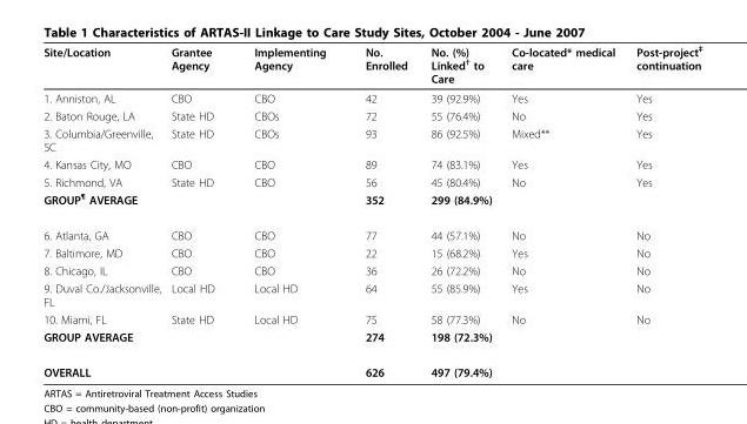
<table><thead><tr><td>Site/Location</td><td>Grantee Agency</td><td>Implementing Agency</td><td>No. Enrolled</td><td>No. (%) Linked<sup>†</sup> to Care</td><td>Co-located* medical care</td><td>Post-project<sup>‡</sup> continuation</td></tr></thead><tbody><tr><td>1. Anniston, AL</td><td>CBO</td><td>CBO</td><td>42</td><td>39 (92.9%)</td><td>Yes</td><td>Yes</td></tr><tr><td>2. Baton Rouge, LA</td><td>State HD</td><td>CBOs</td><td>72</td><td>55 (76.4%)</td><td>No</td><td>Yes</td></tr><tr><td>3. Columbia/Greenville, SC</td><td>State HD</td><td>CBOs</td><td>93</td><td>86 (92.5%)</td><td>Mixed**</td><td>Yes</td></tr><tr><td>4. Kansas City, MO</td><td>CBO</td><td>CBO</td><td>89</td><td>74 (83.1%)</td><td>Yes</td><td>Yes</td></tr><tr><td>5. Richmond, VA</td><td>State HD</td><td>CBO</td><td>56</td><td>45 (80.4%)</td><td>No</td><td>Yes</td></tr><tr><td>GROUP<sup>¶</sup> AVERAGE</td><td></td><td></td><td>352</td><td>299 (84.9%)</td><td></td><td></td></tr><tr><td>6. Atlanta, GA</td><td>CBO</td><td>CBO</td><td>77</td><td>44 (57.1%)</td><td>No</td><td>No</td></tr><tr><td>7. Baltimore, MD</td><td>CBO</td><td>CBO</td><td>22</td><td>15 (68.2%)</td><td>Yes</td><td>No</td></tr><tr><td>8. Chicago, IL</td><td>CBO</td><td>CBO</td><td>36</td><td>26 (72.2%)</td><td>No</td><td>No</td></tr><tr><td>9. Duval Co./Jacksonville, FL</td><td>Local HD</td><td>Local HD</td><td>64</td><td>55 (85.9%)</td><td>Yes</td><td>No</td></tr><tr><td>10. Miami, FL</td><td>State HD</td><td>Local HD</td><td>75</td><td>58 (77.3%)</td><td>No</td><td>No</td></tr><tr><td>GROUP AVERAGE</td><td></td><td></td><td>274</td><td>198 (72.3%)</td><td></td><td></td></tr><tr><td>OVERALL</td><td></td><td></td><td>626</td><td>497 (79.4%)</td><td></td><td></td></tr></tbody></table>